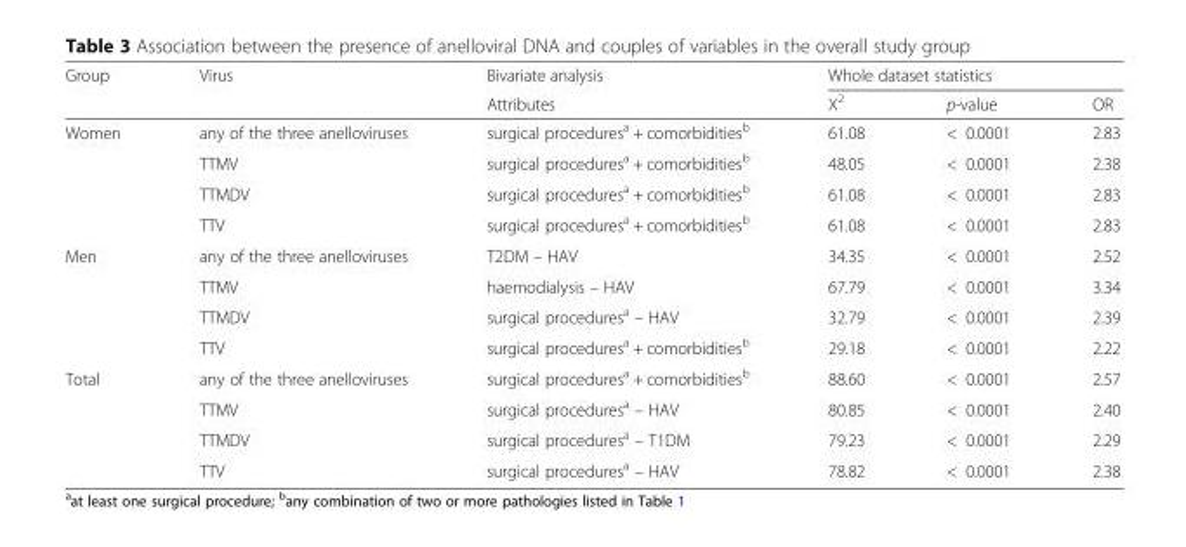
<table><thead><tr><td rowspan="2">Group</td><td rowspan="2">Virus</td><td rowspan="2">Bivariate analysis Attributes</td><td colspan="3">Whole dataset statistics</td></tr><tr><td>Χ<sup>2</sup></td><td>p-value</td><td>OR</td></tr></thead><tbody><tr><td rowspan="4">Women</td><td>any of the three anelloviruses</td><td>surgical procedures<sup>a</sup> + comorbidities<sup>b</sup></td><td>61.08</td><td>&lt; 0.0001</td><td>2.83</td></tr><tr><td>TTMV</td><td>surgical procedures<sup>a</sup> + comorbidities<sup>b</sup></td><td>48.05</td><td>&lt; 0.0001</td><td>2.38</td></tr><tr><td>TTMDV</td><td>surgical procedures<sup>a</sup> + comorbidities<sup>b</sup></td><td>61.08</td><td>&lt; 0.0001</td><td>2.83</td></tr><tr><td>TTV</td><td>surgical procedures<sup>a</sup> + comorbidities<sup>b</sup></td><td>61.08</td><td>&lt; 0.0001</td><td>2.83</td></tr><tr><td rowspan="4">Men</td><td>any of the three anelloviruses</td><td>T2DM – HAV</td><td>34.35</td><td>&lt; 0.0001</td><td>2.52</td></tr><tr><td>TTMV</td><td>haemodialysis – HAV</td><td>67.79</td><td>&lt; 0.0001</td><td>3.34</td></tr><tr><td>TTMDV</td><td>surgical procedures<sup>a</sup> – HAV</td><td>32.79</td><td>&lt; 0.0001</td><td>2.39</td></tr><tr><td>TTV</td><td>surgical procedures<sup>a</sup> + comorbidities<sup>b</sup></td><td>29.18</td><td>&lt; 0.0001</td><td>2.22</td></tr><tr><td rowspan="4">Total</td><td>any of the three anelloviruses</td><td>surgical procedures<sup>a</sup> + comorbidities<sup>b</sup></td><td>88.60</td><td>&lt; 0.0001</td><td>2.57</td></tr><tr><td>TTMV</td><td>surgical procedures<sup>a</sup> – HAV</td><td>80.85</td><td>&lt; 0.0001</td><td>2.40</td></tr><tr><td>TTMDV</td><td>surgical procedures<sup>a</sup> – T1DM</td><td>79.23</td><td>&lt; 0.0001</td><td>2.29</td></tr><tr><td>TTV</td><td>surgical procedures<sup>a</sup> – HAV</td><td>78.82</td><td>&lt; 0.0001</td><td>2.38</td></tr></tbody></table>